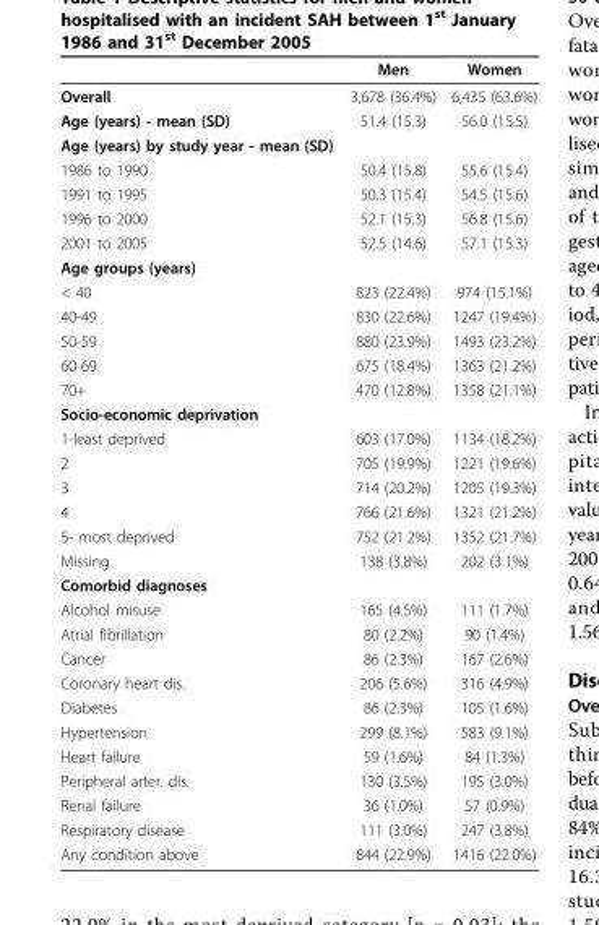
<table><thead><tr><td></td><td>Men</td><td>Women</td></tr></thead><tbody><tr><td>Overall</td><td>3,678 (36.4%)</td><td>6,435 (63.6%)</td></tr><tr><td>Age (years) - mean (SD)</td><td>51.4 (15.3)</td><td>56.0 (15.5)</td></tr><tr><td colspan="3">Age (years) by study year - mean (SD)</td></tr><tr><td>1986 to 1990</td><td>50.4 (15.8)</td><td>55.6 (15.4)</td></tr><tr><td>1991 to 1995</td><td>50.3 (15.4)</td><td>54.5 (15.6)</td></tr><tr><td>1996 to 2000</td><td>52.1 (15.3)</td><td>56.8 (15.6)</td></tr><tr><td>2001 to 2005</td><td>52.5 (14.6)</td><td>57.1 (15.3)</td></tr><tr><td colspan="3">Age groups (years)</td></tr><tr><td>&lt; 40</td><td>823 (22.4%)</td><td>974 (15.1%)</td></tr><tr><td>40-49</td><td>830 (22.6%)</td><td>1247 (19.4%)</td></tr><tr><td>50-59</td><td>880 (23.9%)</td><td>1493 (23.2%)</td></tr><tr><td>60-69</td><td>675 (18.4%)</td><td>1363 (21.2%)</td></tr><tr><td>70+</td><td>470 (12.8%)</td><td>1358 (21.1%)</td></tr><tr><td colspan="3">Socio-economic deprivation</td></tr><tr><td>1-least deprived</td><td>603 (17.0%)</td><td>1134 (18.2%)</td></tr><tr><td>2</td><td>705 (19.9%)</td><td>1221 (19.6%)</td></tr><tr><td>3</td><td>714 (20.2%)</td><td>1205 (19.3%)</td></tr><tr><td>4</td><td>766 (21.6%)</td><td>1321 (21.2%)</td></tr><tr><td>5- most deprived</td><td>752 (21.2%)</td><td>1352 (21.7%)</td></tr><tr><td>Missing</td><td>138 (3.8%)</td><td>202 (3.1%)</td></tr><tr><td colspan="3">Comorbid diagnoses</td></tr><tr><td>Alcohol misuse</td><td>165 (4.5%)</td><td>111 (1.7%)</td></tr><tr><td>Atrial fibrillation</td><td>80 (2.2%)</td><td>90 (1.4%)</td></tr><tr><td>Cancer</td><td>86 (2.3%)</td><td>167 (2.6%)</td></tr><tr><td>Coronary heart dis.</td><td>206 (5.6%)</td><td>316 (4.9%)</td></tr><tr><td>Diabetes</td><td>86 (2.3%)</td><td>105 (1.6%)</td></tr><tr><td>Hypertension</td><td>299 (8.1%)</td><td>583 (9.1%)</td></tr><tr><td>Heart failure</td><td>59 (1.6%)</td><td>84 (1.3%)</td></tr><tr><td>Peripheral arter. dis.</td><td>130 (3.5%)</td><td>195 (3.0%)</td></tr><tr><td>Renal failure</td><td>36 (1.0%)</td><td>57 (0.9%)</td></tr><tr><td>Respiratory disease</td><td>111 (3.0%)</td><td>247 (3.8%)</td></tr><tr><td>Any condition above</td><td>844 (22.9%)</td><td>1416 (22.0%)</td></tr></tbody></table>